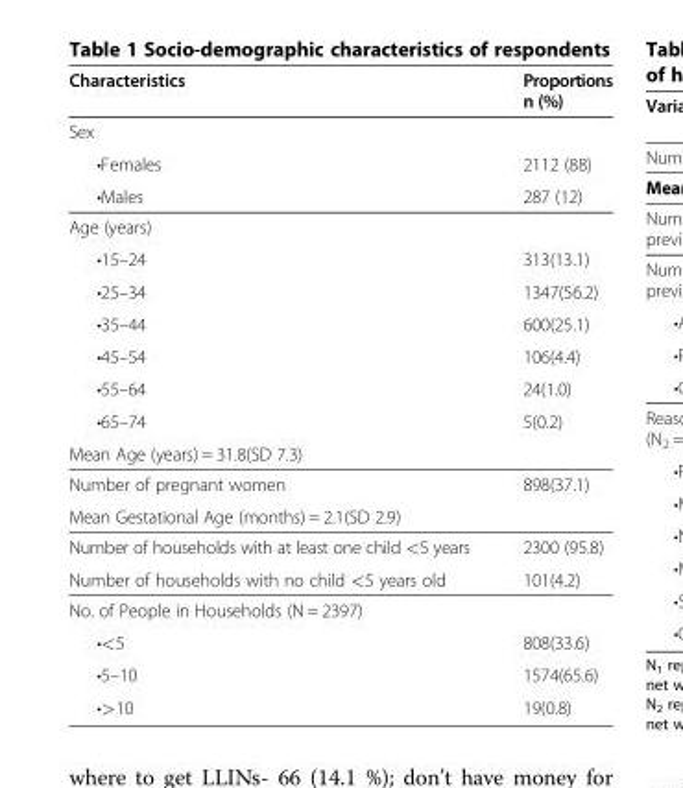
<table><thead><tr><td>Characteristics</td><td>Proportions n (%)</td></tr></thead><tbody><tr><td colspan="2">Sex</td></tr><tr><td>•Females</td><td>2112 (88)</td></tr><tr><td>•Males</td><td>287 (12)</td></tr><tr><td colspan="2">Age (years)</td></tr><tr><td>•15–24</td><td>313(13.1)</td></tr><tr><td>•25–34</td><td>1347(56.2)</td></tr><tr><td>•35–44</td><td>600(25.1)</td></tr><tr><td>•45–54</td><td>106(4.4)</td></tr><tr><td>•55–64</td><td>24(1.0)</td></tr><tr><td>•65–74</td><td>5(0.2)</td></tr><tr><td colspan="2">Mean Age (years) = 31.8(SD 7.3)</td></tr><tr><td>Number of pregnant women</td><td>898(37.1)</td></tr><tr><td colspan="2">Mean Gestational Age (months) = 2.1(SD 2.9)</td></tr><tr><td>Number of households with at least one child &lt;5 years</td><td>2300 (95.8)</td></tr><tr><td>Number of households with no child &lt;5 years old</td><td>101(4.2)</td></tr><tr><td colspan="2">No. of People in Households (N = 2397)</td></tr><tr><td>•&lt;5</td><td>808(33.6)</td></tr><tr><td>•5–10</td><td>1574(65.6)</td></tr><tr><td>•&gt;10</td><td>19(0.8)</td></tr></tbody></table>